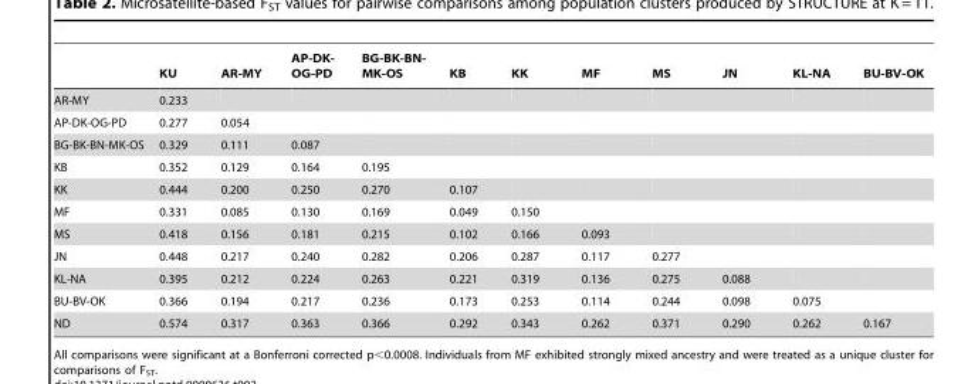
<table><thead><tr><td></td><td>KU</td><td>AR-MY</td><td>AP-DK- OG-PD</td><td>BG-BK-BN- MK-OS</td><td>KB</td><td>KK</td><td>MF</td><td>MS</td><td>JN</td><td>KL-NA</td><td>BU-BV-OK</td></tr></thead><tbody><tr><td>AR-MY</td><td>0.233</td><td></td><td></td><td></td><td></td><td></td><td></td><td></td><td></td><td></td><td></td></tr><tr><td>AP-DK-OG-PD</td><td>0.277</td><td>0.054</td><td></td><td></td><td></td><td></td><td></td><td></td><td></td><td></td><td></td></tr><tr><td>BG-BK-BN-MK-OS</td><td>0.329</td><td>0.111</td><td>0.087</td><td></td><td></td><td></td><td></td><td></td><td></td><td></td><td></td></tr><tr><td>KB</td><td>0.352</td><td>0.129</td><td>0.164</td><td>0.195</td><td></td><td></td><td></td><td></td><td></td><td></td><td></td></tr><tr><td>KK</td><td>0.444</td><td>0.200</td><td>0.250</td><td>0.270</td><td>0.107</td><td></td><td></td><td></td><td></td><td></td><td></td></tr><tr><td>MF</td><td>0.331</td><td>0.085</td><td>0.130</td><td>0.169</td><td>0.049</td><td>0.150</td><td></td><td></td><td></td><td></td><td></td></tr><tr><td>MS</td><td>0.418</td><td>0.156</td><td>0.181</td><td>0.215</td><td>0.102</td><td>0.166</td><td>0.093</td><td></td><td></td><td></td><td></td></tr><tr><td>JN</td><td>0.448</td><td>0.217</td><td>0.240</td><td>0.282</td><td>0.206</td><td>0.287</td><td>0.117</td><td>0.277</td><td></td><td></td><td></td></tr><tr><td>KL-NA</td><td>0.395</td><td>0.212</td><td>0.224</td><td>0.263</td><td>0.221</td><td>0.319</td><td>0.136</td><td>0.275</td><td>0.088</td><td></td><td></td></tr><tr><td>BU-BV-OK</td><td>0.366</td><td>0.194</td><td>0.217</td><td>0.236</td><td>0.173</td><td>0.253</td><td>0.114</td><td>0.244</td><td>0.098</td><td>0.075</td><td></td></tr><tr><td>ND</td><td>0.574</td><td>0.317</td><td>0.363</td><td>0.366</td><td>0.292</td><td>0.343</td><td>0.262</td><td>0.371</td><td>0.290</td><td>0.262</td><td>0.167</td></tr></tbody></table>